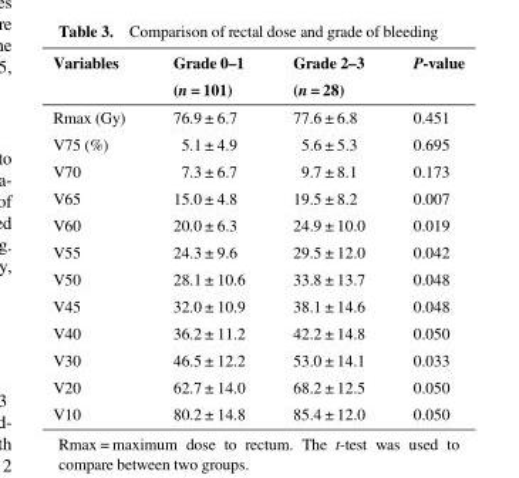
<table><thead><tr><td rowspan="2">Variables</td><td rowspan="2">Grade 0–1 (n = 101)</td><td rowspan="2">Grade 2–3 (n = 28)</td><td rowspan="2">P-value</td></tr><tr></tr></thead><tbody><tr><td>Rmax (Gy)</td><td>76.9 ± 6.7</td><td>77.6 ± 6.8</td><td>0.451</td></tr><tr><td>V75 (%)</td><td>5.1 ± 4.9</td><td>5.6 ± 5.3</td><td>0.695</td></tr><tr><td>V70</td><td>7.3 ± 6.7</td><td>9.7 ± 8.1</td><td>0.173</td></tr><tr><td>V65</td><td>15.0 ± 4.8</td><td>19.5 ± 8.2</td><td>0.007</td></tr><tr><td>V60</td><td>20.0 ± 6.3</td><td>24.9 ± 10.0</td><td>0.019</td></tr><tr><td>V55</td><td>24.3 ± 9.6</td><td>29.5 ± 12.0</td><td>0.042</td></tr><tr><td>V50</td><td>28.1 ± 10.6</td><td>33.8 ± 13.7</td><td>0.048</td></tr><tr><td>V45</td><td>32.0 ± 10.9</td><td>38.1 ± 14.6</td><td>0.048</td></tr><tr><td>V40</td><td>36.2 ± 11.2</td><td>42.2 ± 14.8</td><td>0.050</td></tr><tr><td>V30</td><td>46.5 ± 12.2</td><td>53.0 ± 14.1</td><td>0.033</td></tr><tr><td>V20</td><td>62.7 ± 14.0</td><td>68.2 ± 12.5</td><td>0.050</td></tr><tr><td>V10</td><td>80.2 ± 14.8</td><td>85.4 ± 12.0</td><td>0.050</td></tr></tbody></table>